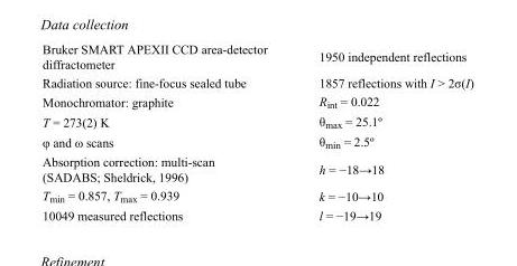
<table><tbody><tr><td>Bruker SMART APEXII CCD area-detector diffractometer</td><td>1950 independent reflections</td></tr><tr><td>Radiation source: fine-focus sealed tube</td><td>1857 reflections with I &gt; 2σ(I)</td></tr><tr><td>Monochromator: graphite</td><td>R<sub>int</sub> = 0.022</td></tr><tr><td>T = 273(2) K</td><td>θ<sub>max</sub> = 25.1º</td></tr><tr><td>φ and ω scans</td><td>θ<sub>min</sub> = 2.5º</td></tr><tr><td>Absorption correction: multi-scan (SADABS; Sheldrick, 1996)</td><td>h = −18→18</td></tr><tr><td>T<sub>min</sub> = 0.857, T<sub>max</sub> = 0.939</td><td>k = −10→10</td></tr><tr><td>10049 measured reflections</td><td>l = −19→19</td></tr></tbody></table>